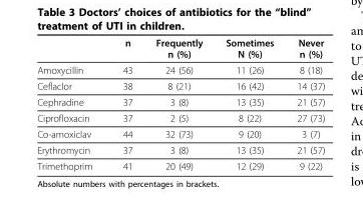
<table><thead><tr><td></td><td>n</td><td>Frequently n (%)</td><td>Sometimes N (%)</td><td>Never n (%)</td></tr></thead><tbody><tr><td>Amoxycillin</td><td>43</td><td>24 (56)</td><td>11 (26)</td><td>8 (18)</td></tr><tr><td>Ceflaclor</td><td>38</td><td>8 (21)</td><td>16 (42)</td><td>14 (37)</td></tr><tr><td>Cephradine</td><td>37</td><td>3 (8)</td><td>13 (35)</td><td>21 (57)</td></tr><tr><td>Ciprofloxacin</td><td>37</td><td>2 (5)</td><td>8 (22)</td><td>27 (73)</td></tr><tr><td>Co-amoxiclav</td><td>44</td><td>32 (73)</td><td>9 (20)</td><td>3 (7)</td></tr><tr><td>Erythromycin</td><td>37</td><td>3 (8)</td><td>13 (35)</td><td>21 (57)</td></tr><tr><td>Trimethoprim</td><td>41</td><td>20 (49)</td><td>12 (29)</td><td>9 (22)</td></tr></tbody></table>